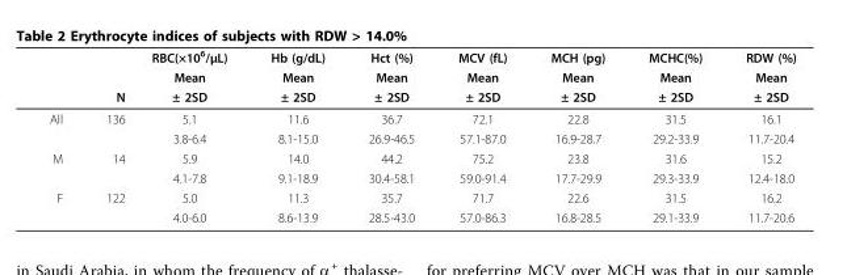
<table><thead><tr><td rowspan="3"></td><td rowspan="3">N</td><td rowspan="3">RBC(×10<sup>6</sup>/μL) Mean ± 2SD</td><td rowspan="3">Hb (g/dL) Mean ± 2SD</td><td rowspan="3">Hct (%) Mean ± 2SD</td><td rowspan="3">MCV (fL) Mean ± 2SD</td><td rowspan="3">MCH (pg) Mean ± 2SD</td><td rowspan="3">MCHC(%) Mean ± 2SD</td><td rowspan="3">RDW (%) Mean ± 2SD</td></tr><tr></tr><tr></tr></thead><tbody><tr><td rowspan="2">All</td><td>136</td><td>5.1</td><td>11.6</td><td>36.7</td><td>72.1</td><td>22.8</td><td>31.5</td><td>16.1</td></tr><tr><td></td><td>3.8-6.4</td><td>8.1-15.0</td><td>26.9-46.5</td><td>57.1-87.0</td><td>16.9-28.7</td><td>29.2-33.9</td><td>11.7-20.4</td></tr><tr><td rowspan="2">M</td><td>14</td><td>5.9</td><td>14.0</td><td>44.2</td><td>75.2</td><td>23.8</td><td>31.6</td><td>15.2</td></tr><tr><td></td><td>4.1-7.8</td><td>9.1-18.9</td><td>30.4-58.1</td><td>59.0-91.4</td><td>17.7-29.9</td><td>29.3-33.9</td><td>12.4-18.0</td></tr><tr><td rowspan="2">F</td><td>122</td><td>5.0</td><td>11.3</td><td>35.7</td><td>71.7</td><td>22.6</td><td>31.5</td><td>16.2</td></tr><tr><td></td><td>4.0-6.0</td><td>8.6-13.9</td><td>28.5-43.0</td><td>57.0-86.3</td><td>16.8-28.5</td><td>29.1-33.9</td><td>11.7-20.6</td></tr></tbody></table>